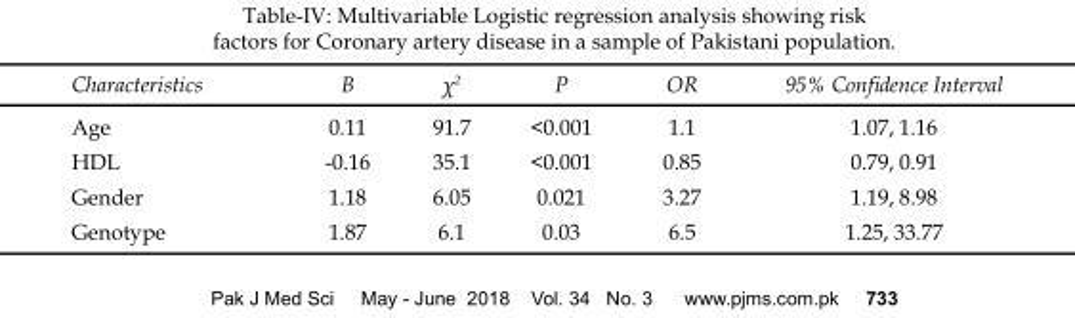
<table><thead><tr><td>Characteristics</td><td>Β</td><td>χ<sup>2</sup></td><td>P</td><td>OR</td><td>95% Confidence Interval</td></tr></thead><tbody><tr><td>Age</td><td>0.11</td><td>91.7</td><td>&lt;0.001</td><td>1.1</td><td>1.07, 1.16</td></tr><tr><td>HDL</td><td>-0.16</td><td>35.1</td><td>&lt;0.001</td><td>0.85</td><td>0.79, 0.91</td></tr><tr><td>Gender</td><td>1.18</td><td>6.05</td><td>0.021</td><td>3.27</td><td>1.19, 8.98</td></tr><tr><td>Genotype</td><td>1.87</td><td>6.1</td><td>0.03</td><td>6.5</td><td>1.25, 33.77</td></tr></tbody></table>